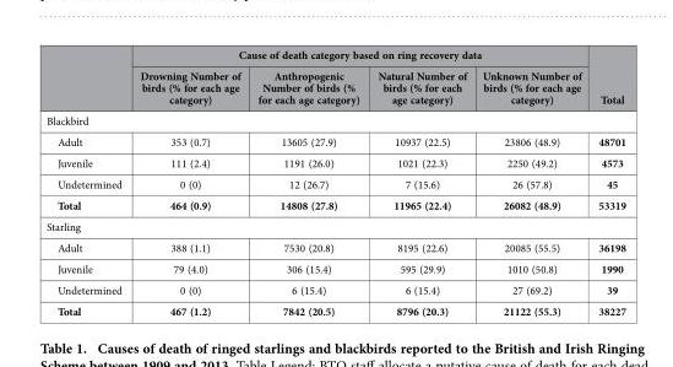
<table><thead><tr><td rowspan="2"></td><td colspan="4">Cause of death category based on ring recovery data</td><td rowspan="2">Total</td></tr><tr><td>Drowning Number of birds (% for each age category)</td><td>Anthropogenic Number of birds (% for each age category)</td><td>Natural Number of birds (% for each age category)</td><td>Unknown Number of birds (% for each age category)</td></tr></thead><tbody><tr><td colspan="6">Blackbird</td></tr><tr><td>Adult</td><td>353 (0.7)</td><td>13605 (27.9)</td><td>10937 (22.5)</td><td>23806 (48.9)</td><td>48701</td></tr><tr><td>Juvenile</td><td>111 (2.4)</td><td>1191 (26.0)</td><td>1021 (22.3)</td><td>2250 (49.2)</td><td>4573</td></tr><tr><td>Undetermined</td><td>0 (0)</td><td>12 (26.7)</td><td>7 (15.6)</td><td>26 (57.8)</td><td>45</td></tr><tr><td>Total</td><td>464 (0.9)</td><td>14808 (27.8)</td><td>11965 (22.4)</td><td>26082 (48.9)</td><td>53319</td></tr><tr><td colspan="6">Starling</td></tr><tr><td>Adult</td><td>388 (1.1)</td><td>7530 (20.8)</td><td>8195 (22.6)</td><td>20085 (55.5)</td><td>36198</td></tr><tr><td>Juvenile</td><td>79 (4.0)</td><td>306 (15.4)</td><td>595 (29.9)</td><td>1010 (50.8)</td><td>1990</td></tr><tr><td>Undetermined</td><td>0 (0)</td><td>6 (15.4)</td><td>6 (15.4)</td><td>27 (69.2)</td><td>39</td></tr><tr><td>Total</td><td>467 (1.2)</td><td>7842 (20.5)</td><td>8796 (20.3)</td><td>21122 (55.3)</td><td>38227</td></tr></tbody></table>